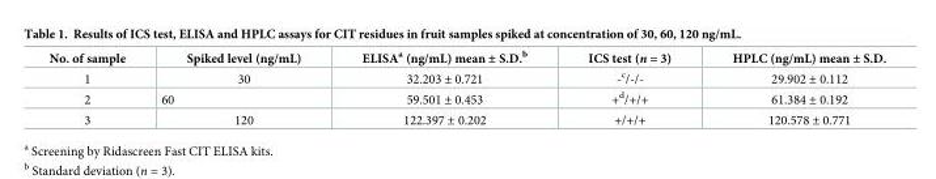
<table><thead><tr><td>No. of sample</td><td>Spiked level (ng/mL)</td><td>ELISA<sup>a</sup> (ng/mL) mean ± S.D.<sup>b</sup></td><td>ICS test (n = 3)</td><td>HPLC (ng/mL) mean ± S.D.</td></tr></thead><tbody><tr><td>1</td><td>30</td><td>32.203 ± 0.721</td><td>-<sup>c</sup>/-/-</td><td>29.902 ± 0.112</td></tr><tr><td>2</td><td>60</td><td>59.501 ± 0.453</td><td>+<sup>d</sup>/+/+</td><td>61.384 ± 0.192</td></tr><tr><td>3</td><td>120</td><td>122.397 ± 0.202</td><td>+/+/+</td><td>120.578 ± 0.771</td></tr></tbody></table>